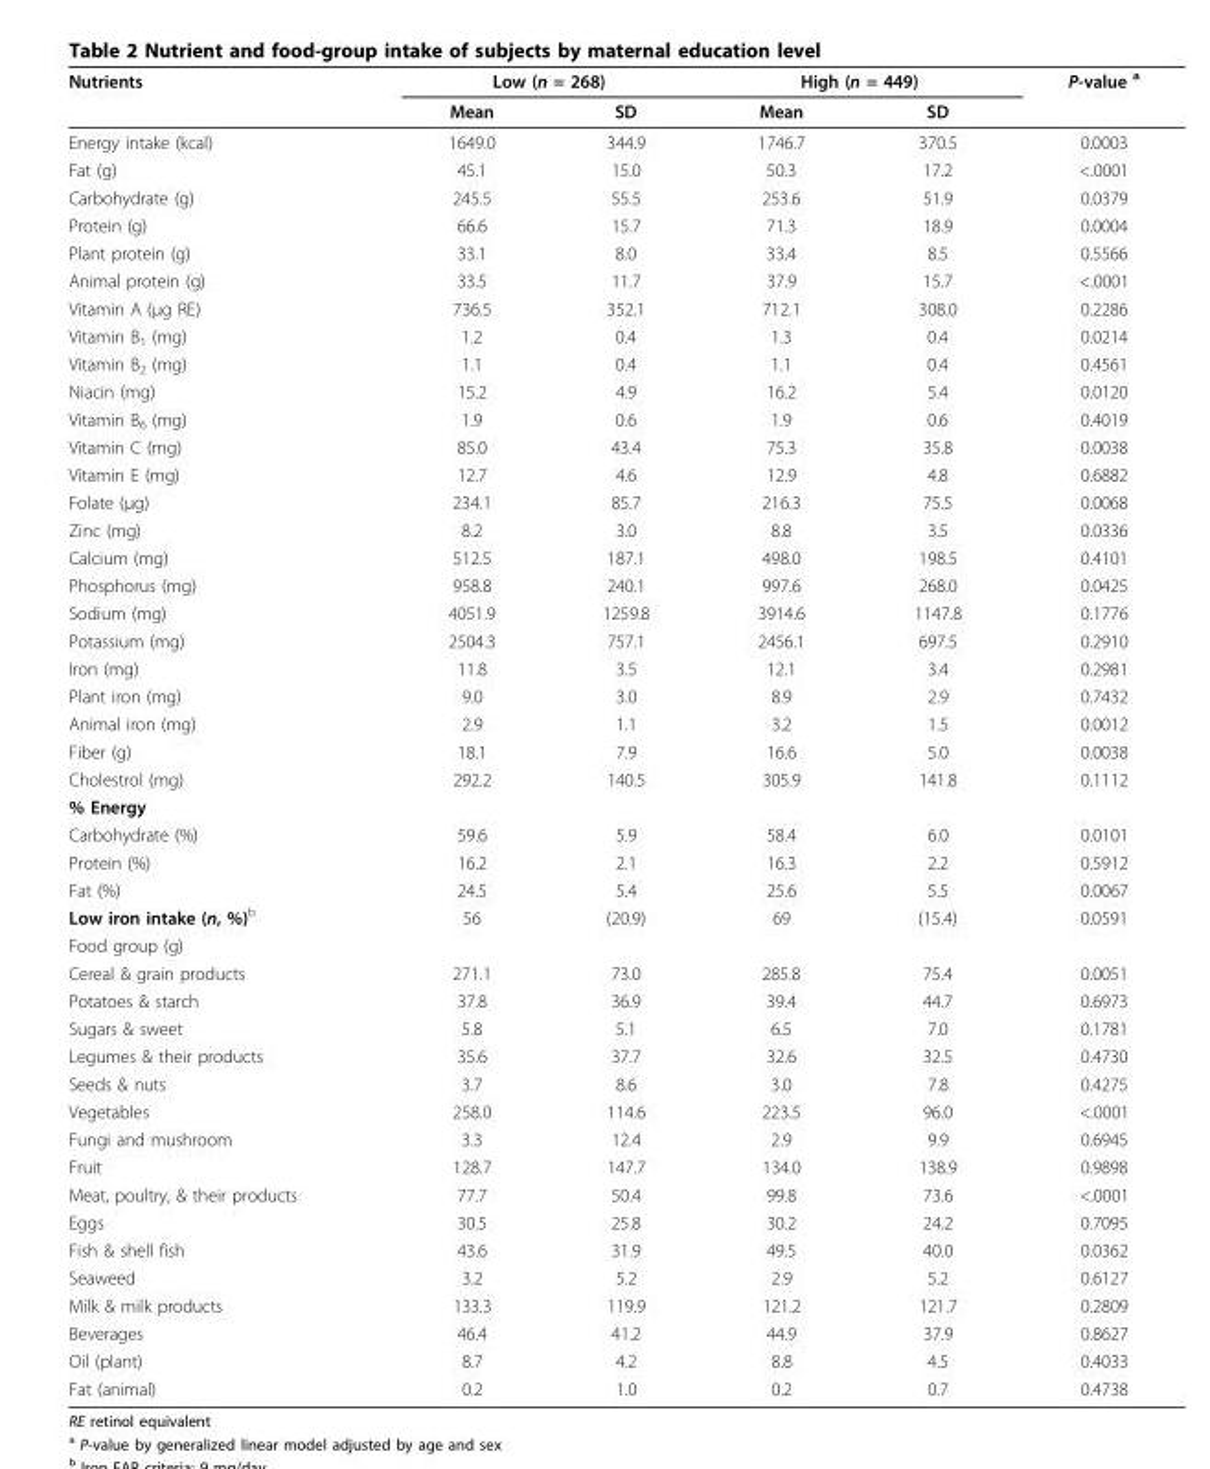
<table><thead><tr><td rowspan="2">Nutrients</td><td colspan="2">Low (n = 268)</td><td colspan="2">High (n = 449)</td><td rowspan="2">P-value <sup>a</sup></td></tr><tr><td>Mean</td><td>SD</td><td>Mean</td><td>SD</td></tr></thead><tbody><tr><td>Energy intake (kcal)</td><td>1649.0</td><td>344.9</td><td>1746.7</td><td>370.5</td><td>0.0003</td></tr><tr><td>Fat (g)</td><td>45.1</td><td>15.0</td><td>50.3</td><td>17.2</td><td>&lt;.0001</td></tr><tr><td>Carbohydrate (g)</td><td>245.5</td><td>55.5</td><td>253.6</td><td>51.9</td><td>0.0379</td></tr><tr><td>Protein (g)</td><td>66.6</td><td>15.7</td><td>71.3</td><td>18.9</td><td>0.0004</td></tr><tr><td>Plant protein (g)</td><td>33.1</td><td>8.0</td><td>33.4</td><td>8.5</td><td>0.5566</td></tr><tr><td>Animal protein (g)</td><td>33.5</td><td>11.7</td><td>37.9</td><td>15.7</td><td>&lt;.0001</td></tr><tr><td>Vitamin A (μg RE)</td><td>736.5</td><td>352.1</td><td>712.1</td><td>308.0</td><td>0.2286</td></tr><tr><td>Vitamin B<sub>1</sub> (mg)</td><td>1.2</td><td>0.4</td><td>1.3</td><td>0.4</td><td>0.0214</td></tr><tr><td>Vitamin B<sub>2</sub> (mg)</td><td>1.1</td><td>0.4</td><td>1.1</td><td>0.4</td><td>0.4561</td></tr><tr><td>Niacin (mg)</td><td>15.2</td><td>4.9</td><td>16.2</td><td>5.4</td><td>0.0120</td></tr><tr><td>Vitamin B<sub>6</sub> (mg)</td><td>1.9</td><td>0.6</td><td>1.9</td><td>0.6</td><td>0.4019</td></tr><tr><td>Vitamin C (mg)</td><td>85.0</td><td>43.4</td><td>75.3</td><td>35.8</td><td>0.0038</td></tr><tr><td>Vitamin E (mg)</td><td>12.7</td><td>4.6</td><td>12.9</td><td>4.8</td><td>0.6882</td></tr><tr><td>Folate (μg)</td><td>234.1</td><td>85.7</td><td>216.3</td><td>75.5</td><td>0.0068</td></tr><tr><td>Zinc (mg)</td><td>8.2</td><td>3.0</td><td>8.8</td><td>3.5</td><td>0.0336</td></tr><tr><td>Calcium (mg)</td><td>512.5</td><td>187.1</td><td>498.0</td><td>198.5</td><td>0.4101</td></tr><tr><td>Phosphorus (mg)</td><td>958.8</td><td>240.1</td><td>997.6</td><td>268.0</td><td>0.0425</td></tr><tr><td>Sodium (mg)</td><td>4051.9</td><td>1259.8</td><td>3914.6</td><td>1147.8</td><td>0.1776</td></tr><tr><td>Potassium (mg)</td><td>2504.3</td><td>757.1</td><td>2456.1</td><td>697.5</td><td>0.2910</td></tr><tr><td>Iron (mg)</td><td>11.8</td><td>3.5</td><td>12.1</td><td>3.4</td><td>0.2981</td></tr><tr><td>Plant iron (mg)</td><td>9.0</td><td>3.0</td><td>8.9</td><td>2.9</td><td>0.7432</td></tr><tr><td>Animal iron (mg)</td><td>2.9</td><td>1.1</td><td>3.2</td><td>1.5</td><td>0.0012</td></tr><tr><td>Fiber (g)</td><td>18.1</td><td>7.9</td><td>16.6</td><td>5.0</td><td>0.0038</td></tr><tr><td>Cholestrol (mg)</td><td>292.2</td><td>140.5</td><td>305.9</td><td>141.8</td><td>0.1112</td></tr><tr><td colspan="6">% Energy</td></tr><tr><td>Carbohydrate (%)</td><td>59.6</td><td>5.9</td><td>58.4</td><td>6.0</td><td>0.0101</td></tr><tr><td>Protein (%)</td><td>16.2</td><td>2.1</td><td>16.3</td><td>2.2</td><td>0.5912</td></tr><tr><td>Fat (%)</td><td>24.5</td><td>5.4</td><td>25.6</td><td>5.5</td><td>0.0067</td></tr><tr><td>Low iron intake (n, %)<sup>b</sup></td><td>56</td><td>(20.9)</td><td>69</td><td>(15.4)</td><td>0.0591</td></tr><tr><td colspan="6">Food group (g)</td></tr><tr><td>Cereal &amp; grain products</td><td>271.1</td><td>73.0</td><td>285.8</td><td>75.4</td><td>0.0051</td></tr><tr><td>Potatoes &amp; starch</td><td>37.8</td><td>36.9</td><td>39.4</td><td>44.7</td><td>0.6973</td></tr><tr><td>Sugars &amp; sweet</td><td>5.8</td><td>5.1</td><td>6.5</td><td>7.0</td><td>0.1781</td></tr><tr><td>Legumes &amp; their products</td><td>35.6</td><td>37.7</td><td>32.6</td><td>32.5</td><td>0.4730</td></tr><tr><td>Seeds &amp; nuts</td><td>3.7</td><td>8.6</td><td>3.0</td><td>7.8</td><td>0.4275</td></tr><tr><td>Vegetables</td><td>258.0</td><td>114.6</td><td>223.5</td><td>96.0</td><td>&lt;.0001</td></tr><tr><td>Fungi and mushroom</td><td>3.3</td><td>12.4</td><td>2.9</td><td>9.9</td><td>0.6945</td></tr><tr><td>Fruit</td><td>128.7</td><td>147.7</td><td>134.0</td><td>138.9</td><td>0.9898</td></tr><tr><td>Meat, poultry, &amp; their products</td><td>77.7</td><td>50.4</td><td>99.8</td><td>73.6</td><td>&lt;.0001</td></tr><tr><td>Eggs</td><td>30.5</td><td>25.8</td><td>30.2</td><td>24.2</td><td>0.7095</td></tr><tr><td>Fish &amp; shell fish</td><td>43.6</td><td>31.9</td><td>49.5</td><td>40.0</td><td>0.0362</td></tr><tr><td>Seaweed</td><td>3.2</td><td>5.2</td><td>2.9</td><td>5.2</td><td>0.6127</td></tr><tr><td>Milk &amp; milk products</td><td>133.3</td><td>119.9</td><td>121.2</td><td>121.7</td><td>0.2809</td></tr><tr><td>Beverages</td><td>46.4</td><td>41.2</td><td>44.9</td><td>37.9</td><td>0.8627</td></tr><tr><td>Oil (plant)</td><td>8.7</td><td>4.2</td><td>8.8</td><td>4.5</td><td>0.4033</td></tr><tr><td>Fat (animal)</td><td>0.2</td><td>1.0</td><td>0.2</td><td>0.7</td><td>0.4738</td></tr></tbody></table>